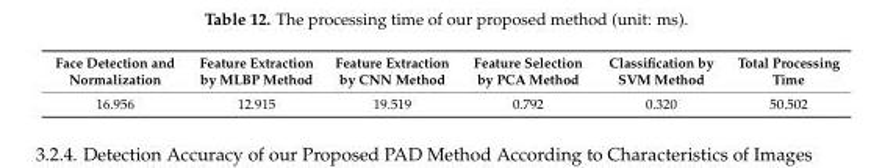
<table><thead><tr><td>Face Detection and Normalization</td><td>Feature Extraction by MLBP Method</td><td>Feature Extraction by CNN Method</td><td>Feature Selection by PCA Method</td><td>Classification by SVM Method</td><td>Total Processing Time</td></tr></thead><tbody><tr><td>16.956</td><td>12.915</td><td>19.519</td><td>0.792</td><td>0.320</td><td>50.502</td></tr></tbody></table>